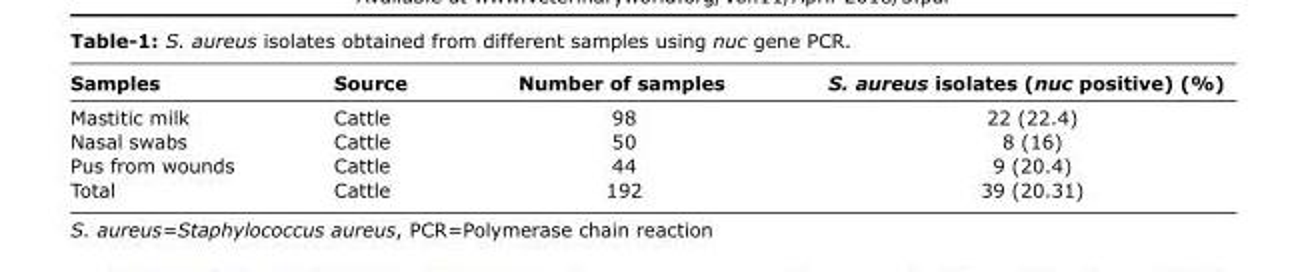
<table><thead><tr><td>Samples</td><td>Source</td><td>Number of samples</td><td>S. aureus isolates (nuc positive) (%)</td></tr></thead><tbody><tr><td>Mastitic milk</td><td>Cattle</td><td>98</td><td>22 (22.4)</td></tr><tr><td>Nasal swabs</td><td>Cattle</td><td>50</td><td>8 (16)</td></tr><tr><td>Pus from wounds</td><td>Cattle</td><td>44</td><td>9 (20.4)</td></tr><tr><td>Total</td><td>Cattle</td><td>192</td><td>39 (20.31)</td></tr></tbody></table>